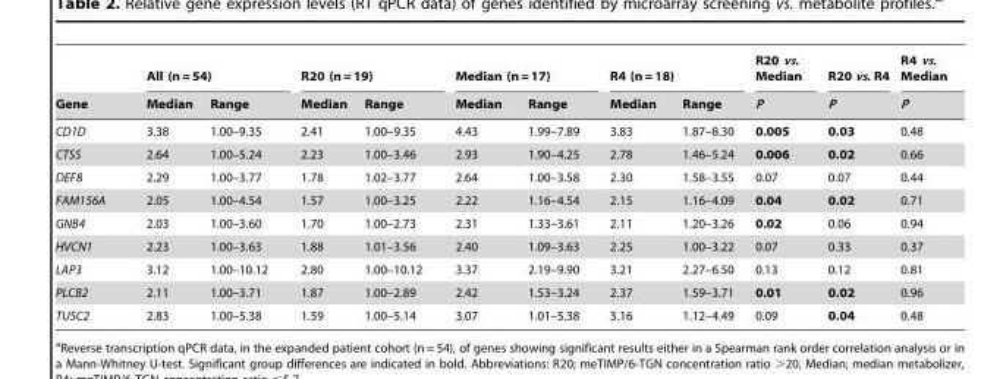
<table><thead><tr><td rowspan="2">Gene</td><td colspan="2">All (n = 54)</td><td colspan="2">R20 (n = 19)</td><td colspan="2">Median (n = 17)</td><td colspan="2">R4 (n = 18)</td><td rowspan="2">R20 vs. Median P</td><td rowspan="2">R20 vs. R4 P</td><td rowspan="2">R4 vs. Median P</td></tr><tr><td>Median</td><td>Range</td><td>Median</td><td>Range</td><td>Median</td><td>Range</td><td>Median</td><td>Range</td></tr></thead><tbody><tr><td>CD1D</td><td>3.38</td><td>1.00–9.35</td><td>2.41</td><td>1.00–9.35</td><td>4.43</td><td>1.99–7.89</td><td>3.83</td><td>1.87–8.30</td><td>0.005</td><td>0.03</td><td>0.48</td></tr><tr><td>CTSS</td><td>2.64</td><td>1.00–5.24</td><td>2.23</td><td>1.00–3.46</td><td>2.93</td><td>1.90–4.25</td><td>2.78</td><td>1.46–5.24</td><td>0.006</td><td>0.02</td><td>0.66</td></tr><tr><td>DEF8</td><td>2.29</td><td>1.00–3.77</td><td>1.78</td><td>1.02–3.77</td><td>2.64</td><td>1.00–3.58</td><td>2.30</td><td>1.58–3.55</td><td>0.07</td><td>0.07</td><td>0.44</td></tr><tr><td>FAM156A</td><td>2.05</td><td>1.00–4.54</td><td>1.57</td><td>1.00–3.25</td><td>2.22</td><td>1.16–4.54</td><td>2.15</td><td>1.16–4.09</td><td>0.04</td><td>0.02</td><td>0.71</td></tr><tr><td>GNB4</td><td>2.03</td><td>1.00–3.60</td><td>1.70</td><td>1.00–2.73</td><td>2.31</td><td>1.33–3.61</td><td>2.11</td><td>1.20–3.26</td><td>0.02</td><td>0.06</td><td>0.94</td></tr><tr><td>HVCN1</td><td>2.23</td><td>1.00–3.63</td><td>1.88</td><td>1.01–3.56</td><td>2.40</td><td>1.09–3.63</td><td>2.25</td><td>1.00–3.22</td><td>0.07</td><td>0.33</td><td>0.37</td></tr><tr><td>LAP3</td><td>3.12</td><td>1.00–10.12</td><td>2.80</td><td>1.00–10.12</td><td>3.37</td><td>2.19–9.90</td><td>3.21</td><td>2.27–6.50</td><td>0.13</td><td>0.12</td><td>0.81</td></tr><tr><td>PLCB2</td><td>2.11</td><td>1.00–3.71</td><td>1.87</td><td>1.00–2.89</td><td>2.42</td><td>1.53–3.24</td><td>2.37</td><td>1.59–3.71</td><td>0.01</td><td>0.02</td><td>0.96</td></tr><tr><td>TUSC2</td><td>2.83</td><td>1.00–5.38</td><td>1.59</td><td>1.00–5.14</td><td>3.07</td><td>1.01–5.38</td><td>3.16</td><td>1.12–4.49</td><td>0.09</td><td>0.04</td><td>0.48</td></tr></tbody></table>